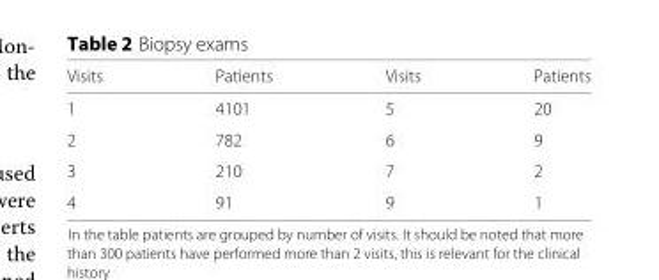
<table><thead><tr><td>Visits</td><td>Patients</td><td>Visits</td><td>Patients</td></tr></thead><tbody><tr><td>1</td><td>4101</td><td>5</td><td>20</td></tr><tr><td>2</td><td>782</td><td>6</td><td>9</td></tr><tr><td>3</td><td>210</td><td>7</td><td>2</td></tr><tr><td>4</td><td>91</td><td>9</td><td>1</td></tr></tbody></table>